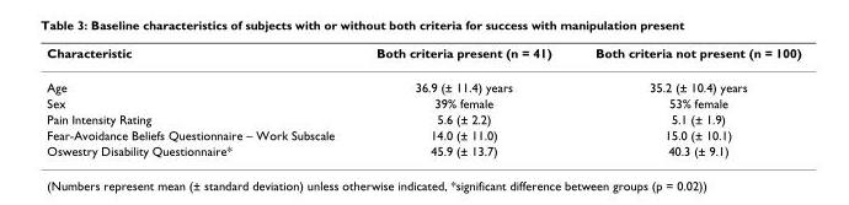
<table><thead><tr><td>Characteristic</td><td>Both criteria present (n = 41)</td><td>Both criteria not present (n = 100)</td></tr></thead><tbody><tr><td>Age</td><td>36.9 (± 11.4) years</td><td>35.2 (± 10.4) years</td></tr><tr><td>Sex</td><td>39% female</td><td>53% female</td></tr><tr><td>Pain Intensity Rating</td><td>5.6 (± 2.2)</td><td>5.1 (± 1.9)</td></tr><tr><td>Fear-Avoidance Beliefs Questionnaire – Work Subscale</td><td>14.0 (± 11.0)</td><td>15.0 (± 10.1)</td></tr><tr><td>Oswestry Disability Questionnaire*</td><td>45.9 (± 13.7)</td><td>40.3 (± 9.1)</td></tr></tbody></table>